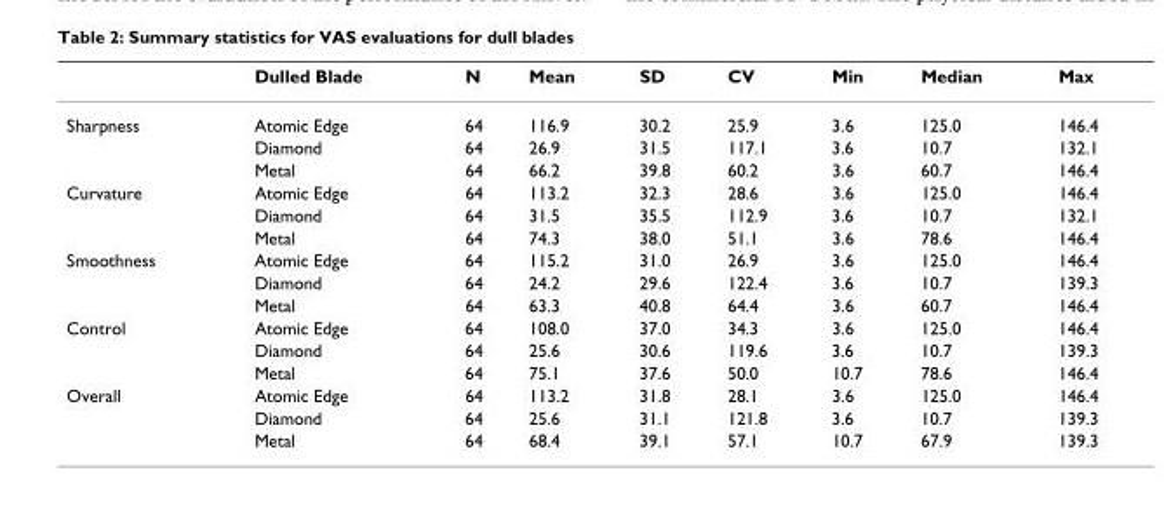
<table><thead><tr><td></td><td>Dulled Blade</td><td>N</td><td>Mean</td><td>SD</td><td>CV</td><td>Min</td><td>Median</td><td>Max</td></tr></thead><tbody><tr><td rowspan="3">Sharpness</td><td>Atomic Edge</td><td>64</td><td>116.9</td><td>30.2</td><td>25.9</td><td>3.6</td><td>125.0</td><td>146.4</td></tr><tr><td>Diamond</td><td>64</td><td>26.9</td><td>31.5</td><td>117.1</td><td>3.6</td><td>10.7</td><td>132.1</td></tr><tr><td>Metal</td><td>64</td><td>66.2</td><td>39.8</td><td>60.2</td><td>3.6</td><td>60.7</td><td>146.4</td></tr><tr><td rowspan="3">Curvature</td><td>Atomic Edge</td><td>64</td><td>113.2</td><td>32.3</td><td>28.6</td><td>3.6</td><td>125.0</td><td>146.4</td></tr><tr><td>Diamond</td><td>64</td><td>31.5</td><td>35.5</td><td>112.9</td><td>3.6</td><td>10.7</td><td>132.1</td></tr><tr><td>Metal</td><td>64</td><td>74.3</td><td>38.0</td><td>51.1</td><td>3.6</td><td>78.6</td><td>146.4</td></tr><tr><td rowspan="3">Smoothness</td><td>Atomic Edge</td><td>64</td><td>115.2</td><td>31.0</td><td>26.9</td><td>3.6</td><td>125.0</td><td>146.4</td></tr><tr><td>Diamond</td><td>64</td><td>24.2</td><td>29.6</td><td>122.4</td><td>3.6</td><td>10.7</td><td>139.3</td></tr><tr><td>Metal</td><td>64</td><td>63.3</td><td>40.8</td><td>64.4</td><td>3.6</td><td>60.7</td><td>146.4</td></tr><tr><td rowspan="3">Control</td><td>Atomic Edge</td><td>64</td><td>108.0</td><td>37.0</td><td>34.3</td><td>3.6</td><td>125.0</td><td>146.4</td></tr><tr><td>Diamond</td><td>64</td><td>25.6</td><td>30.6</td><td>119.6</td><td>3.6</td><td>10.7</td><td>139.3</td></tr><tr><td>Metal</td><td>64</td><td>75.1</td><td>37.6</td><td>50.0</td><td>10.7</td><td>78.6</td><td>146.4</td></tr><tr><td rowspan="3">Overall</td><td>Atomic Edge</td><td>64</td><td>113.2</td><td>31.8</td><td>28.1</td><td>3.6</td><td>125.0</td><td>146.4</td></tr><tr><td>Diamond</td><td>64</td><td>25.6</td><td>31.1</td><td>121.8</td><td>3.6</td><td>10.7</td><td>139.3</td></tr><tr><td>Metal</td><td>64</td><td>68.4</td><td>39.1</td><td>57.1</td><td>10.7</td><td>67.9</td><td>139.3</td></tr></tbody></table>